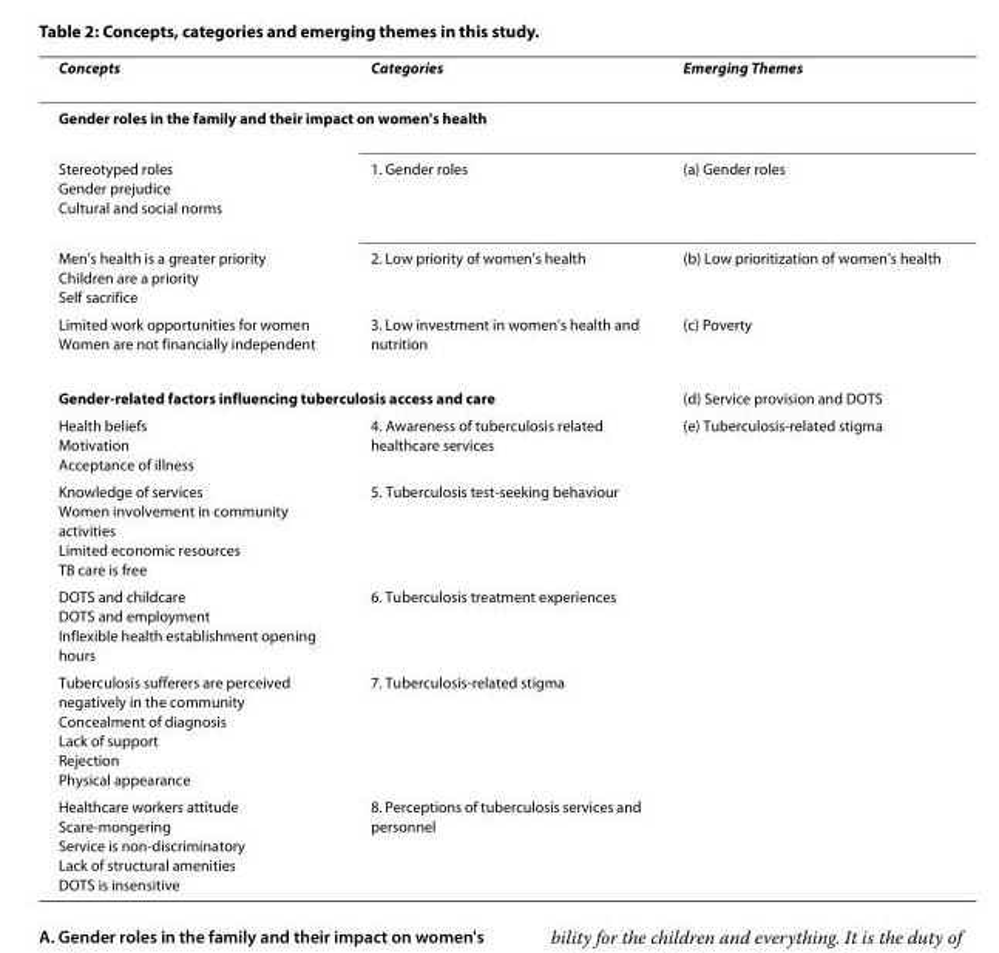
<table><thead><tr><td>Concepts</td><td>Categories</td><td>Emerging Themes</td></tr></thead><tbody><tr><td colspan="3">Gender roles in the family and their impact on women&#x27;s health</td></tr><tr><td>Stereotyped roles Gender prejudice Cultural and social norms</td><td>1. Gender roles</td><td>(a) Gender roles</td></tr><tr><td>Men&#x27;s health is a greater priority Children are a priority Self sacrifice</td><td>2. Low priority of women&#x27;s health</td><td>(b) Low prioritization of women&#x27;s health</td></tr><tr><td>Limited work opportunities for women Women are not financially independent</td><td>3. Low investment in women&#x27;s health and nutrition</td><td>(c) Poverty</td></tr><tr><td colspan="2">Gender-related factors influencing tuberculosis access and care</td><td>(d) Service provision and DOTS</td></tr><tr><td>Health beliefs Motivation Acceptance of illness</td><td>4. Awareness of tuberculosis related healthcare services</td><td>(e) Tuberculosis-related stigma</td></tr><tr><td>Knowledge of services Women involvement in community activities Limited economic resources TB care is free</td><td>5. Tuberculosis test-seeking behaviour</td><td></td></tr><tr><td>DOTS and childcare DOTS and employment Inflexible health establishment opening hours</td><td>6. Tuberculosis treatment experiences</td><td></td></tr><tr><td>Tuberculosis sufferers are perceived negatively in the community Concealment of diagnosis Lack of support Rejection Physical appearance</td><td>7. Tuberculosis-related stigma</td><td></td></tr><tr><td>Healthcare workers attitude Scare-mongering Service is non-discriminatory Lack of structural amenities DOTS is insensitive</td><td>8. Perceptions of tuberculosis services and personnel</td><td></td></tr></tbody></table>